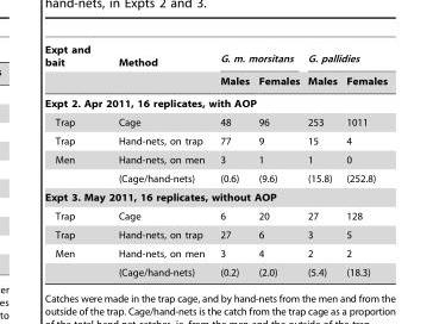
<table><thead><tr><td rowspan="2">Expt and bait</td><td rowspan="2">Method</td><td colspan="2">G. m. morsitans</td><td colspan="2">G. pallidies</td></tr><tr><td>Males</td><td>Females</td><td>Males</td><td>Females</td></tr></thead><tbody><tr><td colspan="6">Expt 2. Apr 2011, 16 replicates, with AOP</td></tr><tr><td>Trap</td><td>Cage</td><td>48</td><td>96</td><td>253</td><td>1011</td></tr><tr><td>Trap</td><td>Hand-nets, on trap</td><td>77</td><td>9</td><td>15</td><td>4</td></tr><tr><td rowspan="2">Men</td><td>Hand-nets, on men</td><td>3</td><td>1</td><td>1</td><td>0</td></tr><tr><td>(Cage/hand-nets)</td><td>(0.6)</td><td>(9.6)</td><td>(15.8)</td><td>(252.8)</td></tr><tr><td colspan="6">Expt 3. May 2011, 16 replicates, without AOP</td></tr><tr><td>Trap</td><td>Cage</td><td>6</td><td>20</td><td>27</td><td>128</td></tr><tr><td>Trap</td><td>Hand-nets, on trap</td><td>27</td><td>6</td><td>3</td><td>5</td></tr><tr><td rowspan="2">Men</td><td>Hand-nets, on men</td><td>3</td><td>4</td><td>2</td><td>2</td></tr><tr><td>(Cage/hand-nets)</td><td>(0.2)</td><td>(2.0)</td><td>(5.4)</td><td>(18.3)</td></tr></tbody></table>